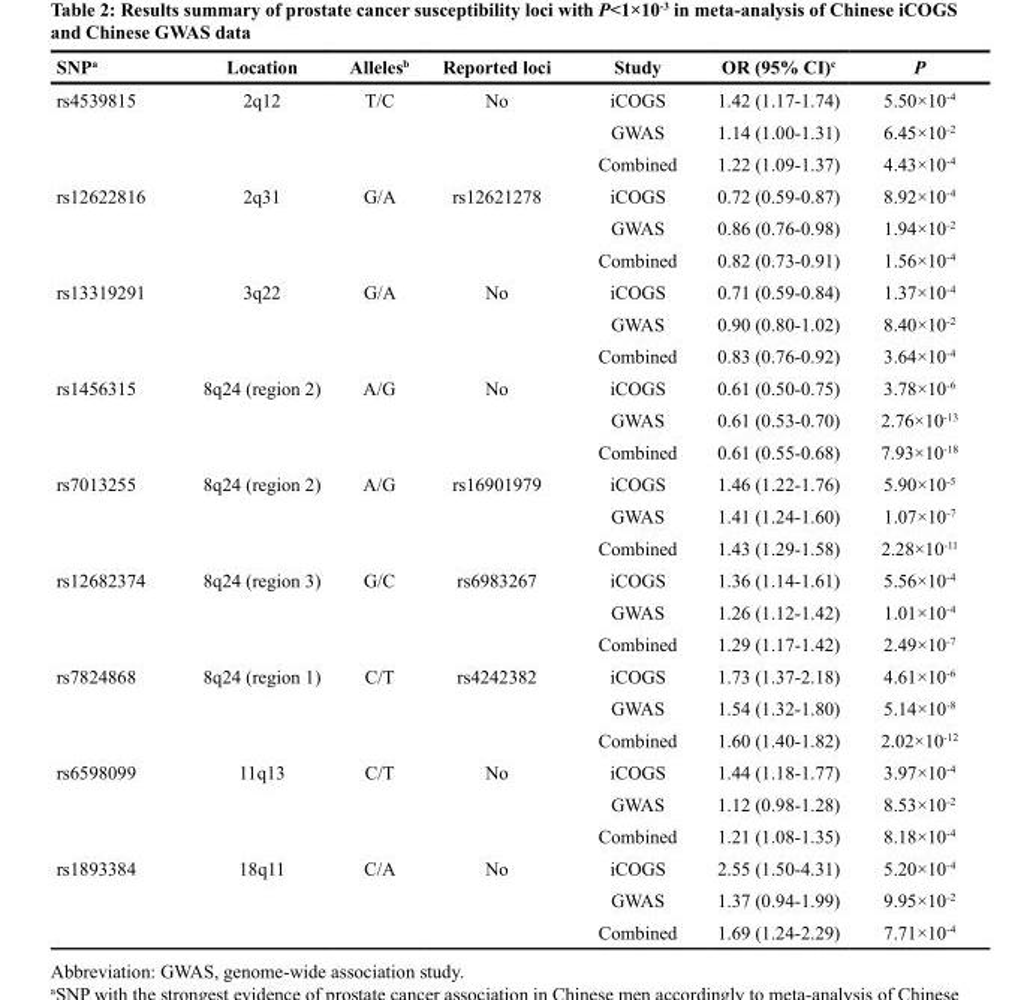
<table><thead><tr><td>SNP<sup>a</sup></td><td>Location</td><td>Alleles<sup>b</sup></td><td>Reported loci</td><td>Study</td><td>OR (95% CI)<sup>c</sup></td><td>P</td></tr></thead><tbody><tr><td rowspan="3">rs4539815</td><td>2q12</td><td>T/C</td><td>No</td><td>iCOGS</td><td>1.42 (1.17-1.74)</td><td>5.50×10<sup>-4</sup></td></tr><tr><td></td><td></td><td></td><td>GWAS</td><td>1.14 (1.00-1.31)</td><td>6.45×10<sup>-2</sup></td></tr><tr><td></td><td></td><td></td><td>Combined</td><td>1.22 (1.09-1.37)</td><td>4.43×10<sup>-4</sup></td></tr><tr><td rowspan="3">rs12622816</td><td>2q31</td><td>G/A</td><td>rs12621278</td><td>iCOGS</td><td>0.72 (0.59-0.87)</td><td>8.92×10<sup>-4</sup></td></tr><tr><td></td><td></td><td></td><td>GWAS</td><td>0.86 (0.76-0.98)</td><td>1.94×10<sup>-2</sup></td></tr><tr><td></td><td></td><td></td><td>Combined</td><td>0.82 (0.73-0.91)</td><td>1.56×10<sup>-4</sup></td></tr><tr><td rowspan="3">rs13319291</td><td>3q22</td><td>G/A</td><td>No</td><td>iCOGS</td><td>0.71 (0.59-0.84)</td><td>1.37×10<sup>-4</sup></td></tr><tr><td></td><td></td><td></td><td>GWAS</td><td>0.90 (0.80-1.02)</td><td>8.40×10<sup>-2</sup></td></tr><tr><td></td><td></td><td></td><td>Combined</td><td>0.83 (0.76-0.92)</td><td>3.64×10<sup>-4</sup></td></tr><tr><td rowspan="3">rs1456315</td><td>8q24 (region 2)</td><td>A/G</td><td>No</td><td>iCOGS</td><td>0.61 (0.50-0.75)</td><td>3.78×10<sup>-6</sup></td></tr><tr><td></td><td></td><td></td><td>GWAS</td><td>0.61 (0.53-0.70)</td><td>2.76×10-13</td></tr><tr><td></td><td></td><td></td><td>Combined</td><td>0.61 (0.55-0.68)</td><td>7.93×10-18</td></tr><tr><td rowspan="3">rs7013255</td><td>8q24 (region 2)</td><td>A/G</td><td>rs16901979</td><td>iCOGS</td><td>1.46 (1.22-1.76)</td><td>5.90×10<sup>-5</sup></td></tr><tr><td></td><td></td><td></td><td>GWAS</td><td>1.41 (1.24-1.60)</td><td>1.07×10<sup>-7</sup></td></tr><tr><td></td><td></td><td></td><td>Combined</td><td>1.43 (1.29-1.58)</td><td>2.28×10-11</td></tr><tr><td rowspan="3">rs12682374</td><td>8q24 (region 3)</td><td>G/C</td><td>rs6983267</td><td>iCOGS</td><td>1.36 (1.14-1.61)</td><td>5.56×10<sup>-4</sup></td></tr><tr><td></td><td></td><td></td><td>GWAS</td><td>1.26 (1.12-1.42)</td><td>1.01×10<sup>-4</sup></td></tr><tr><td></td><td></td><td></td><td>Combined</td><td>1.29 (1.17-1.42)</td><td>2.49×10<sup>-7</sup></td></tr><tr><td rowspan="3">rs7824868</td><td>8q24 (region 1)</td><td>C/T</td><td>rs4242382</td><td>iCOGS</td><td>1.73 (1.37-2.18)</td><td>4.61×10<sup>-6</sup></td></tr><tr><td></td><td></td><td></td><td>GWAS</td><td>1.54 (1.32-1.80)</td><td>5.14×10-8</td></tr><tr><td></td><td></td><td></td><td>Combined</td><td>1.60 (1.40-1.82)</td><td>2.02×10-12</td></tr><tr><td rowspan="3">rs6598099</td><td>11q13</td><td>C/T</td><td>No</td><td>iCOGS</td><td>1.44 (1.18-1.77)</td><td>3.97×10<sup>-4</sup></td></tr><tr><td></td><td></td><td></td><td>GWAS</td><td>1.12 (0.98-1.28)</td><td>8.53×10<sup>-2</sup></td></tr><tr><td></td><td></td><td></td><td>Combined</td><td>1.21 (1.08-1.35)</td><td>8.18×10<sup>-4</sup></td></tr><tr><td rowspan="3">rs1893384</td><td>18q11</td><td>C/A</td><td>No</td><td>iCOGS</td><td>2.55 (1.50-4.31)</td><td>5.20×10<sup>-4</sup></td></tr><tr><td></td><td></td><td></td><td>GWAS</td><td>1.37 (0.94-1.99)</td><td>9.95×10<sup>-2</sup></td></tr><tr><td></td><td></td><td></td><td>Combined</td><td>1.69 (1.24-2.29)</td><td>7.71×10<sup>-4</sup></td></tr></tbody></table>